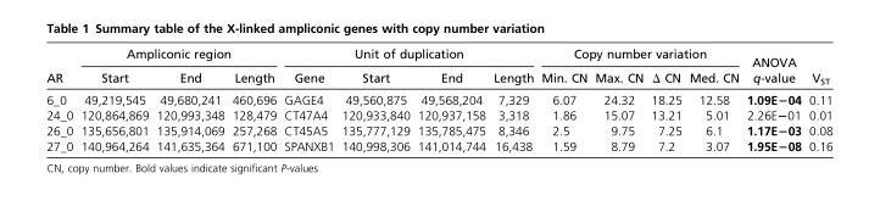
<table><thead><tr><td rowspan="2">AR</td><td colspan="3">Ampliconic region</td><td colspan="4">Unit of duplication</td><td colspan="4">Copy number variation</td><td rowspan="2">ANOVA q-value</td><td rowspan="2">V<sub>ST</sub></td></tr><tr><td>Start</td><td>End</td><td>Length</td><td>Gene</td><td>Start</td><td>End</td><td>Length</td><td>Min. CN</td><td>Max. CN</td><td>Δ CN</td><td>Med. CN</td></tr></thead><tbody><tr><td>6_0</td><td>49,219,545</td><td>49,680,241</td><td>460,696</td><td>GAGE4</td><td>49,560,875</td><td>49,568,204</td><td>7,329</td><td>6.07</td><td>24.32</td><td>18.25</td><td>12.58</td><td>1.09E−04</td><td>0.11</td></tr><tr><td>24_0</td><td>120,864,869</td><td>120,993,348</td><td>128,479</td><td>CT47A4</td><td>120,933,840</td><td>120,937,158</td><td>3,318</td><td>1.86</td><td>15.07</td><td>13.21</td><td>5.01</td><td>2.26E−01</td><td>0.01</td></tr><tr><td>26_0</td><td>135,656,801</td><td>135,914,069</td><td>257,268</td><td>CT45A5</td><td>135,777,129</td><td>135,785,475</td><td>8,346</td><td>2.5</td><td>9.75</td><td>7.25</td><td>6.1</td><td>1.17E−03</td><td>0.08</td></tr><tr><td>27_0</td><td>140,964,264</td><td>141,635,364</td><td>671,100</td><td>SPANXB1</td><td>140,998,306</td><td>141,014,744</td><td>16,438</td><td>1.59</td><td>8.79</td><td>7.2</td><td>3.07</td><td>1.95E−08</td><td>0.16</td></tr></tbody></table>